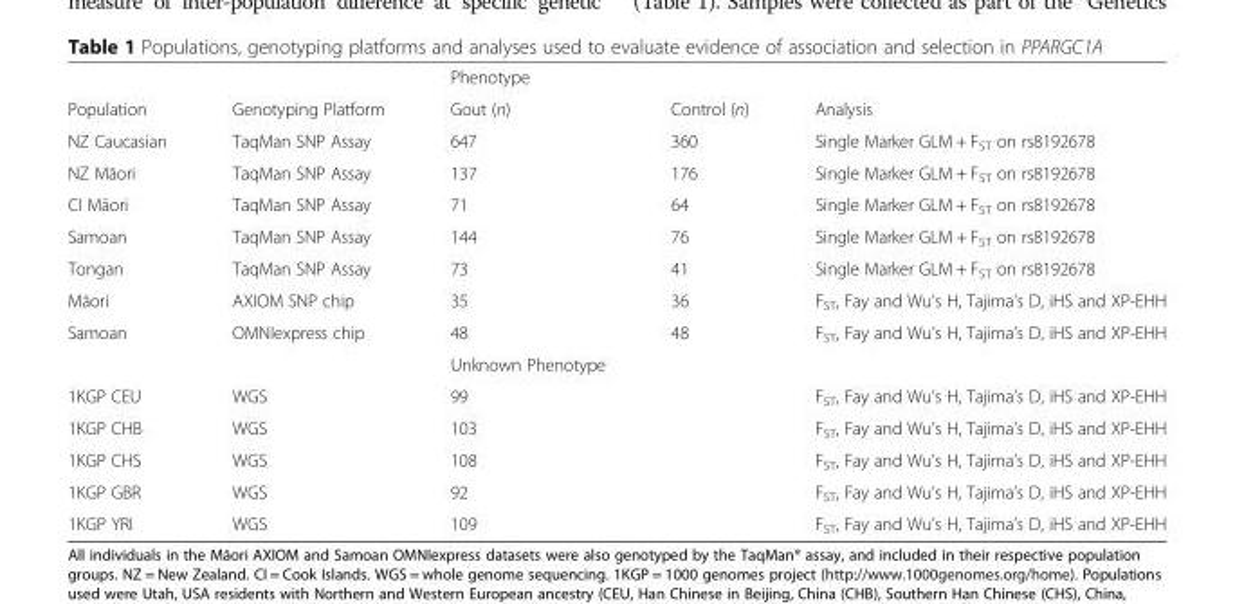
<table><thead><tr><td></td><td></td><td>Phenotype</td><td></td><td></td></tr></thead><tbody><tr><td>Population</td><td>Genotyping Platform</td><td>Gout (n)</td><td>Control (n)</td><td>Analysis</td></tr><tr><td>NZ Caucasian</td><td>TaqMan SNP Assay</td><td>647</td><td>360</td><td>Single Marker GLM + F<sub>ST</sub> on rs8192678</td></tr><tr><td>NZ Māori</td><td>TaqMan SNP Assay</td><td>137</td><td>176</td><td>Single Marker GLM + F<sub>ST</sub> on rs8192678</td></tr><tr><td>CI Māori</td><td>TaqMan SNP Assay</td><td>71</td><td>64</td><td>Single Marker GLM + F<sub>ST</sub> on rs8192678</td></tr><tr><td>Samoan</td><td>TaqMan SNP Assay</td><td>144</td><td>76</td><td>Single Marker GLM + F<sub>ST</sub> on rs8192678</td></tr><tr><td>Tongan</td><td>TaqMan SNP Assay</td><td>73</td><td>41</td><td>Single Marker GLM + F<sub>ST</sub> on rs8192678</td></tr><tr><td>Māori</td><td>AXIOM SNP chip</td><td>35</td><td>36</td><td>F<sub>ST</sub>, Fay and Wu’s H, Tajima’s D, iHS and XP-EHH</td></tr><tr><td rowspan="2">Samoan</td><td>OMNIexpress chip</td><td>48</td><td>48</td><td>F<sub>ST</sub>, Fay and Wu’s H, Tajima’s D, iHS and XP-EHH</td></tr><tr><td></td><td>Unknown Phenotype</td><td></td><td></td></tr><tr><td>1KGP CEU</td><td>WGS</td><td>99</td><td></td><td>F<sub>ST</sub>, Fay and Wu’s H, Tajima’s D, iHS and XP-EHH</td></tr><tr><td>1KGP CHB</td><td>WGS</td><td>103</td><td></td><td>F<sub>ST</sub>, Fay and Wu’s H, Tajima’s D, iHS and XP-EHH</td></tr><tr><td>1KGP CHS</td><td>WGS</td><td>108</td><td></td><td>F<sub>ST</sub>, Fay and Wu’s H, Tajima’s D, iHS and XP-EHH</td></tr><tr><td>1KGP GBR</td><td>WGS</td><td>92</td><td></td><td>F<sub>ST</sub>, Fay and Wu’s H, Tajima’s D, iHS and XP-EHH</td></tr><tr><td>1KGP YRI</td><td>WGS</td><td>109</td><td></td><td>F<sub>ST</sub>, Fay and Wu’s H, Tajima’s D, iHS and XP-EHH</td></tr></tbody></table>